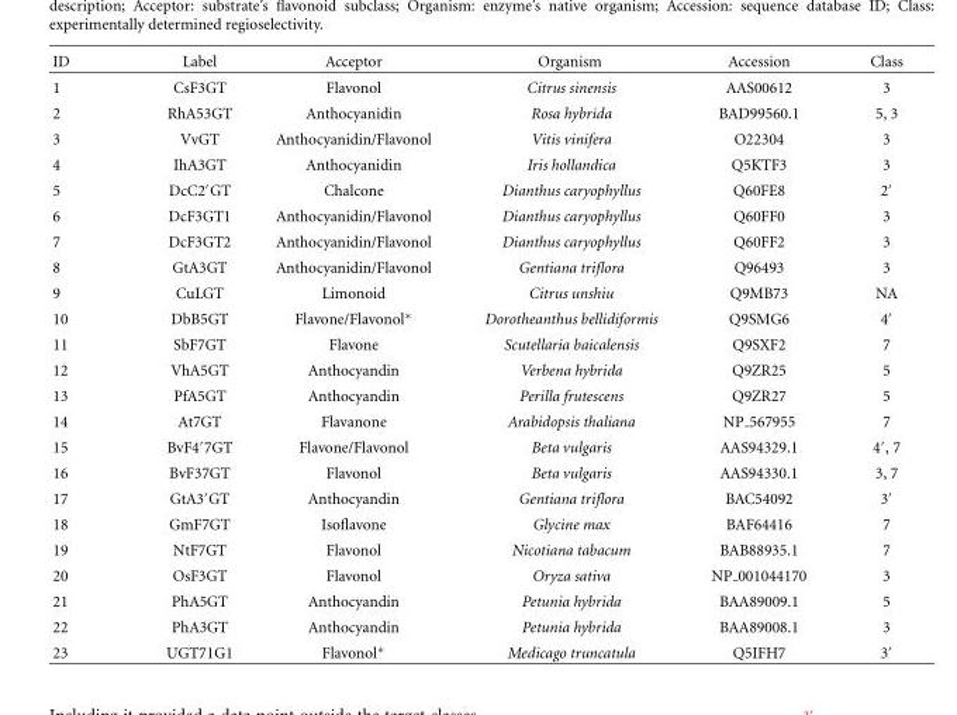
<table><thead><tr><td>ID</td><td>Label</td><td>Acceptor</td><td>Organism</td><td>Accession</td><td>Class</td></tr></thead><tbody><tr><td>1</td><td>CsF3GT</td><td>Flavonol</td><td>Citrus sinensis</td><td>AAS00612</td><td>3</td></tr><tr><td>2</td><td>RhA53GT</td><td>Anthocyanidin</td><td>Rosa hybrida</td><td>BAD99560.1</td><td>5, 3</td></tr><tr><td>3</td><td>VvGT</td><td>Anthocyanidin/Flavonol</td><td>Vitis vinifera</td><td>O22304</td><td>3</td></tr><tr><td>4</td><td>IhA3GT</td><td>Anthocyanidin</td><td>Iris hollandica</td><td>Q5KTF3</td><td>3</td></tr><tr><td>5</td><td>DcC2′GT</td><td>Chalcone</td><td>Dianthus caryophyllus</td><td>Q60FE8</td><td>2′</td></tr><tr><td>6</td><td>DcF3GT1</td><td>Anthocyanidin/Flavonol</td><td>Dianthus caryophyllus</td><td>Q60FF0</td><td>3</td></tr><tr><td>7</td><td>DcF3GT2</td><td>Anthocyanidin/Flavonol</td><td>Dianthus caryophyllus</td><td>Q60FF2</td><td>3</td></tr><tr><td>8</td><td>GtA3GT</td><td>Anthocyanidin/Flavonol</td><td>Gentiana triflora</td><td>Q96493</td><td>3</td></tr><tr><td>9</td><td>CuLGT</td><td>Limonoid</td><td>Citrus unshiu</td><td>Q9MB73</td><td>NA</td></tr><tr><td>10</td><td>DbB5GT</td><td>Flavone/Flavonol∗</td><td>Dorotheanthus bellidiformis</td><td>Q9SMG6</td><td>4′</td></tr><tr><td>11</td><td>SbF7GT</td><td>Flavone</td><td>Scutellaria baicalensis</td><td>Q9SXF2</td><td>7</td></tr><tr><td>12</td><td>VhA5GT</td><td>Anthocyandin</td><td>Verbena hybrida</td><td>Q9ZR25</td><td>5</td></tr><tr><td>13</td><td>PfA5GT</td><td>Anthocyandin</td><td>Perilla frutescens</td><td>Q9ZR27</td><td>5</td></tr><tr><td>14</td><td>At7GT</td><td>Flavanone</td><td>Arabidopsis thaliana</td><td>NP 567955</td><td>7</td></tr><tr><td>15</td><td>BvF4′7GT</td><td>Flavone/Flavonol</td><td>Beta vulgaris</td><td>AAS94329.1</td><td>4′, 7</td></tr><tr><td>16</td><td>BvF37GT</td><td>Flavonol</td><td>Beta vulgaris</td><td>AAS94330.1</td><td>3, 7</td></tr><tr><td>17</td><td>GtA3′GT</td><td>Anthocyandin</td><td>Gentiana triflora</td><td>BAC54092</td><td>3′</td></tr><tr><td>18</td><td>GmF7GT</td><td>Isoflavone</td><td>Glycine max</td><td>BAF64416</td><td>7</td></tr><tr><td>19</td><td>NtF7GT</td><td>Flavonol</td><td>Nicotiana tabacum</td><td>BAB88935.1</td><td>7</td></tr><tr><td>20</td><td>OsF3GT</td><td>Flavonol</td><td>Oryza sativa</td><td>NP 001044170</td><td>3</td></tr><tr><td>21</td><td>PhA5GT</td><td>Anthocyandin</td><td>Petunia hybrida</td><td>BAA89009.1</td><td>5</td></tr><tr><td>22</td><td>PhA3GT</td><td>Anthocyandin</td><td>Petunia hybrida</td><td>BAA89008.1</td><td>3</td></tr><tr><td>23</td><td>UGT71G1</td><td>Flavonol∗</td><td>Medicago truncatula</td><td>Q5IFH7</td><td>3′</td></tr></tbody></table>